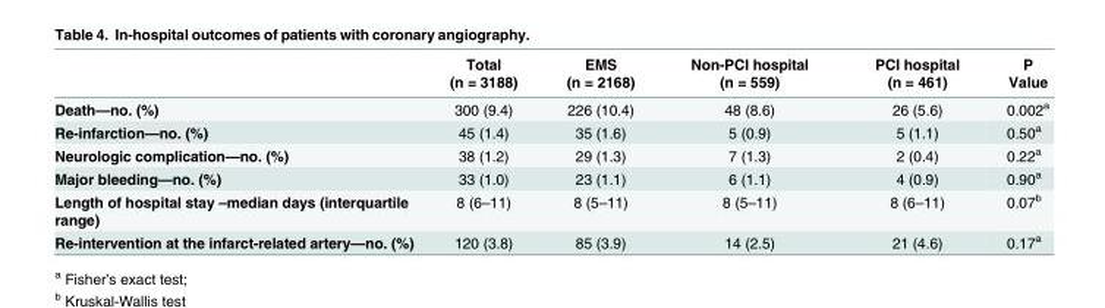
<table><thead><tr><td></td><td>Total (n = 3188)</td><td>EMS (n = 2168)</td><td>Non-PCI hospital (n = 559)</td><td>PCI hospital (n = 461)</td><td>P Value</td></tr></thead><tbody><tr><td>Death—no. (%)</td><td>300 (9.4)</td><td>226 (10.4)</td><td>48 (8.6)</td><td>26 (5.6)</td><td>0.002<sup>a</sup></td></tr><tr><td>Re-infarction—no. (%)</td><td>45 (1.4)</td><td>35 (1.6)</td><td>5 (0.9)</td><td>5 (1.1)</td><td>0.50<sup>a</sup></td></tr><tr><td>Neurologic complication—no. (%)</td><td>38 (1.2)</td><td>29 (1.3)</td><td>7 (1.3)</td><td>2 (0.4)</td><td>0.22<sup>a</sup></td></tr><tr><td>Major bleeding—no. (%)</td><td>33 (1.0)</td><td>23 (1.1)</td><td>6 (1.1)</td><td>4 (0.9)</td><td>0.90<sup>a</sup></td></tr><tr><td>Length of hospital stay –median days (interquartile range)</td><td>8 (6–11)</td><td>8 (5–11)</td><td>8 (5–11)</td><td>8 (6–11)</td><td>0.07<sup>b</sup></td></tr><tr><td>Re-intervention at the infarct-related artery—no. (%)</td><td>120 (3.8)</td><td>85 (3.9)</td><td>14 (2.5)</td><td>21 (4.6)</td><td>0.17<sup>a</sup></td></tr></tbody></table>